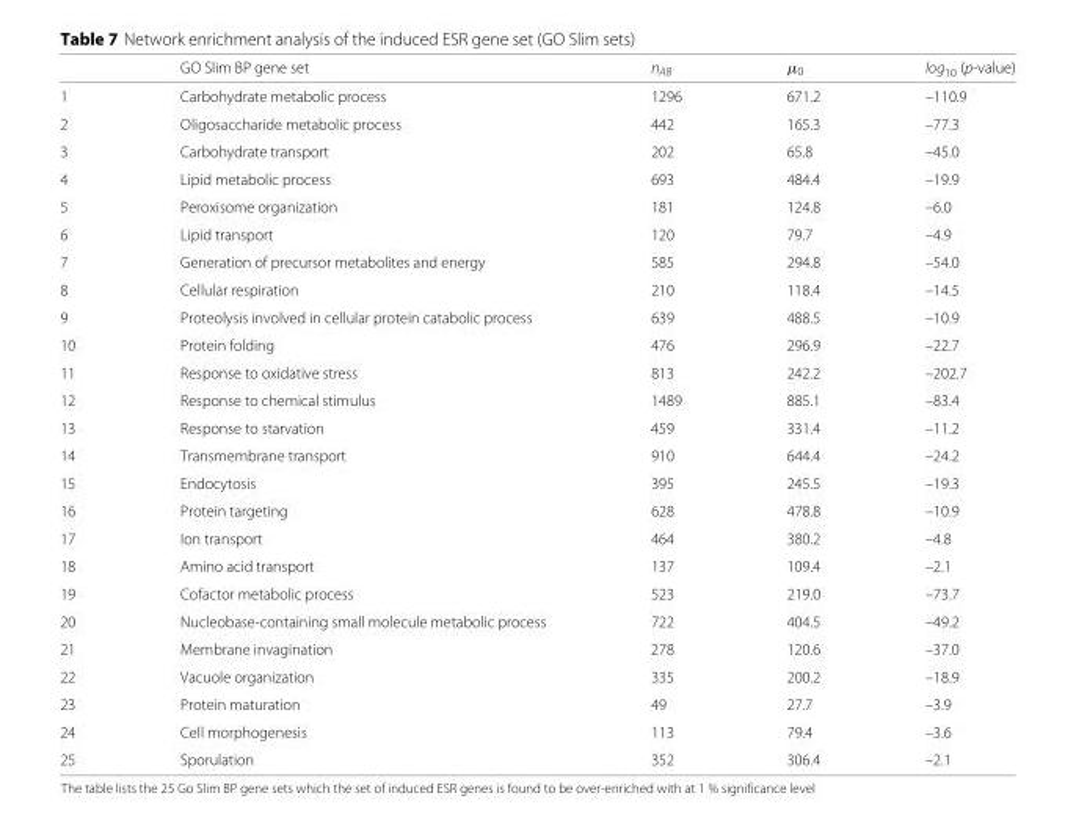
<table><thead><tr><td></td><td>GO Slim BP gene set</td><td>n<sub>AB</sub></td><td>μ<sub>0</sub></td><td>log<sub>10</sub> (p-value)</td></tr></thead><tbody><tr><td>1</td><td>Carbohydrate metabolic process</td><td>1296</td><td>671.2</td><td>–110.9</td></tr><tr><td>2</td><td>Oligosaccharide metabolic process</td><td>442</td><td>165.3</td><td>–77.3</td></tr><tr><td>3</td><td>Carbohydrate transport</td><td>202</td><td>65.8</td><td>–45.0</td></tr><tr><td>4</td><td>Lipid metabolic process</td><td>693</td><td>484.4</td><td>–19.9</td></tr><tr><td>5</td><td>Peroxisome organization</td><td>181</td><td>124.8</td><td>–6.0</td></tr><tr><td>6</td><td>Lipid transport</td><td>120</td><td>79.7</td><td>–4.9</td></tr><tr><td>7</td><td>Generation of precursor metabolites and energy</td><td>585</td><td>294.8</td><td>–54.0</td></tr><tr><td>8</td><td>Cellular respiration</td><td>210</td><td>118.4</td><td>–14.5</td></tr><tr><td>9</td><td>Proteolysis involved in cellular protein catabolic process</td><td>639</td><td>488.5</td><td>–10.9</td></tr><tr><td>10</td><td>Protein folding</td><td>476</td><td>296.9</td><td>–22.7</td></tr><tr><td>11</td><td>Response to oxidative stress</td><td>813</td><td>242.2</td><td>–202.7</td></tr><tr><td>12</td><td>Response to chemical stimulus</td><td>1489</td><td>885.1</td><td>–83.4</td></tr><tr><td>13</td><td>Response to starvation</td><td>459</td><td>331.4</td><td>–11.2</td></tr><tr><td>14</td><td>Transmembrane transport</td><td>910</td><td>644.4</td><td>–24.2</td></tr><tr><td>15</td><td>Endocytosis</td><td>395</td><td>245.5</td><td>–19.3</td></tr><tr><td>16</td><td>Protein targeting</td><td>628</td><td>478.8</td><td>–10.9</td></tr><tr><td>17</td><td>Ion transport</td><td>464</td><td>380.2</td><td>–4.8</td></tr><tr><td>18</td><td>Amino acid transport</td><td>137</td><td>109.4</td><td>–2.1</td></tr><tr><td>19</td><td>Cofactor metabolic process</td><td>523</td><td>219.0</td><td>–73.7</td></tr><tr><td>20</td><td>Nucleobase-containing small molecule metabolic process</td><td>722</td><td>404.5</td><td>–49.2</td></tr><tr><td>21</td><td>Membrane invagination</td><td>278</td><td>120.6</td><td>–37.0</td></tr><tr><td>22</td><td>Vacuole organization</td><td>335</td><td>200.2</td><td>–18.9</td></tr><tr><td>23</td><td>Protein maturation</td><td>49</td><td>27.7</td><td>–3.9</td></tr><tr><td>24</td><td>Cell morphogenesis</td><td>113</td><td>79.4</td><td>–3.6</td></tr><tr><td>25</td><td>Sporulation</td><td>352</td><td>306.4</td><td>–2.1</td></tr></tbody></table>